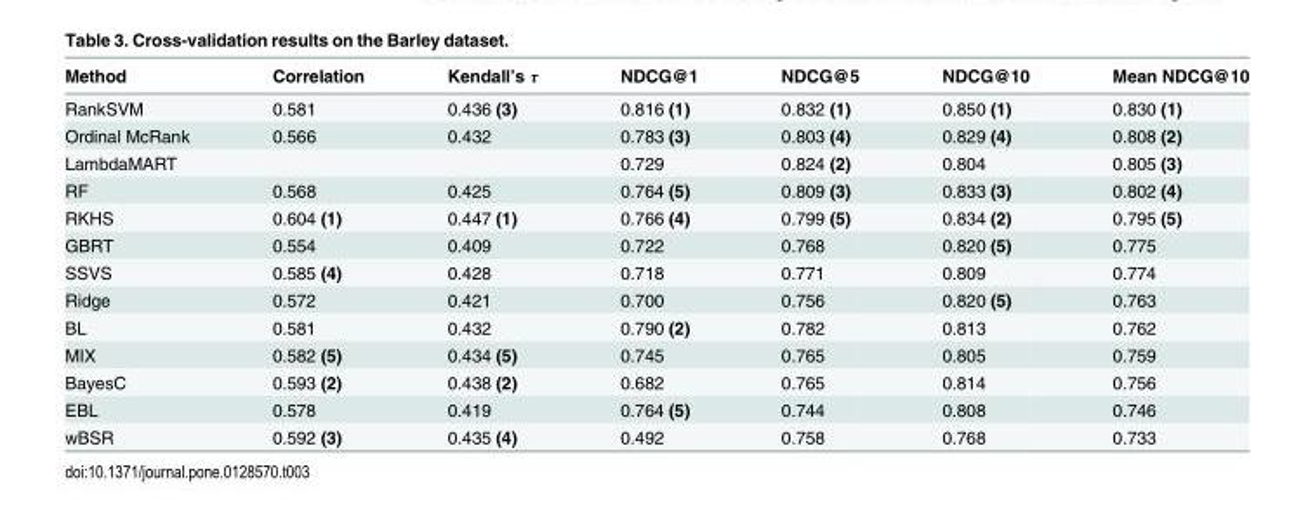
<table><thead><tr><td>Method</td><td>Correlation</td><td>Kendall’s τ</td><td>NDCG@1</td><td>NDCG@5</td><td>NDCG@10</td><td>Mean NDCG@10</td></tr></thead><tbody><tr><td>RankSVM</td><td>0.581</td><td>0.436 (3)</td><td>0.816 (1)</td><td>0.832 (1)</td><td>0.850 (1)</td><td>0.830 (1)</td></tr><tr><td>Ordinal McRank</td><td>0.566</td><td>0.432</td><td>0.783 (3)</td><td>0.803 (4)</td><td>0.829 (4)</td><td>0.808 (2)</td></tr><tr><td>LambdaMART</td><td></td><td></td><td>0.729</td><td>0.824 (2)</td><td>0.804</td><td>0.805 (3)</td></tr><tr><td>RF</td><td>0.568</td><td>0.425</td><td>0.764 (5)</td><td>0.809 (3)</td><td>0.833 (3)</td><td>0.802 (4)</td></tr><tr><td>RKHS</td><td>0.604 (1)</td><td>0.447 (1)</td><td>0.766 (4)</td><td>0.799 (5)</td><td>0.834 (2)</td><td>0.795 (5)</td></tr><tr><td>GBRT</td><td>0.554</td><td>0.409</td><td>0.722</td><td>0.768</td><td>0.820 (5)</td><td>0.775</td></tr><tr><td>SSVS</td><td>0.585 (4)</td><td>0.428</td><td>0.718</td><td>0.771</td><td>0.809</td><td>0.774</td></tr><tr><td>Ridge</td><td>0.572</td><td>0.421</td><td>0.700</td><td>0.756</td><td>0.820 (5)</td><td>0.763</td></tr><tr><td>BL</td><td>0.581</td><td>0.432</td><td>0.790 (2)</td><td>0.782</td><td>0.813</td><td>0.762</td></tr><tr><td>MIX</td><td>0.582 (5)</td><td>0.434 (5)</td><td>0.745</td><td>0.765</td><td>0.805</td><td>0.759</td></tr><tr><td>BayesC</td><td>0.593 (2)</td><td>0.438 (2)</td><td>0.682</td><td>0.765</td><td>0.814</td><td>0.756</td></tr><tr><td>EBL</td><td>0.578</td><td>0.419</td><td>0.764 (5)</td><td>0.744</td><td>0.808</td><td>0.746</td></tr><tr><td>wBSR</td><td>0.592 (3)</td><td>0.435 (4)</td><td>0.492</td><td>0.758</td><td>0.768</td><td>0.733</td></tr></tbody></table>